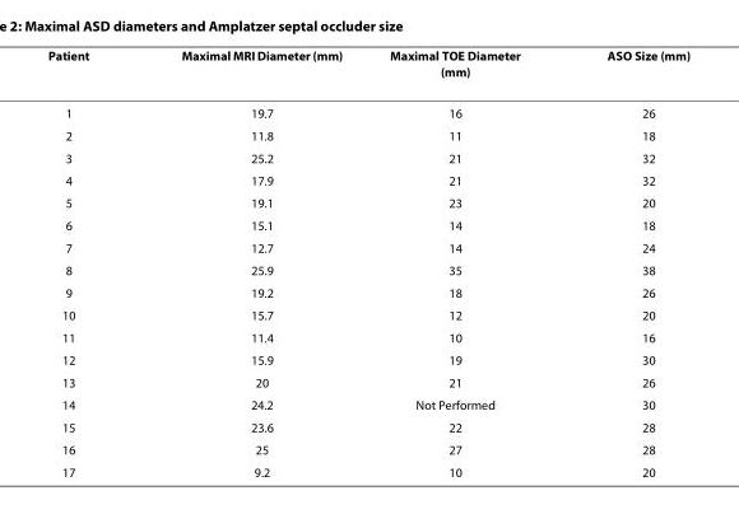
<table><thead><tr><td>Patient</td><td>Maximal MRI Diameter (mm)</td><td>Maximal TOE Diameter (mm)</td><td>ASO Size (mm)</td></tr></thead><tbody><tr><td>1</td><td>19.7</td><td>16</td><td>26</td></tr><tr><td>2</td><td>11.8</td><td>11</td><td>18</td></tr><tr><td>3</td><td>25.2</td><td>21</td><td>32</td></tr><tr><td>4</td><td>17.9</td><td>21</td><td>32</td></tr><tr><td>5</td><td>19.1</td><td>23</td><td>20</td></tr><tr><td>6</td><td>15.1</td><td>14</td><td>18</td></tr><tr><td>7</td><td>12.7</td><td>14</td><td>24</td></tr><tr><td>8</td><td>25.9</td><td>35</td><td>38</td></tr><tr><td>9</td><td>19.2</td><td>18</td><td>26</td></tr><tr><td>10</td><td>15.7</td><td>12</td><td>20</td></tr><tr><td>11</td><td>11.4</td><td>10</td><td>16</td></tr><tr><td>12</td><td>15.9</td><td>19</td><td>30</td></tr><tr><td>13</td><td>20</td><td>21</td><td>26</td></tr><tr><td>14</td><td>24.2</td><td>Not Performed</td><td>30</td></tr><tr><td>15</td><td>23.6</td><td>22</td><td>28</td></tr><tr><td>16</td><td>25</td><td>27</td><td>28</td></tr><tr><td>17</td><td>9.2</td><td>10</td><td>20</td></tr></tbody></table>